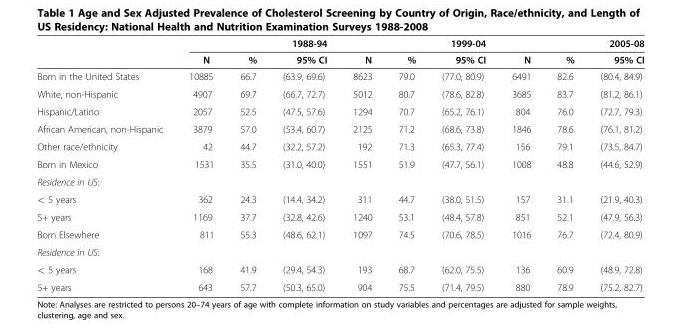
<table><thead><tr><td rowspan="2"></td><td rowspan="2">N</td><td colspan="2">1988-94</td><td rowspan="2">N</td><td colspan="2">1999-04</td><td rowspan="2">N</td><td colspan="2">2005-08</td></tr><tr><td>%</td><td>95% CI</td><td>%</td><td>95% CI</td><td>%</td><td>95% CI</td></tr></thead><tbody><tr><td>Born in the United States</td><td>10885</td><td>66.7</td><td>(63.9, 69.6)</td><td>8623</td><td>79.0</td><td>(77.0, 80.9)</td><td>6491</td><td>82.6</td><td>(80.4, 84.9)</td></tr><tr><td>White, non-Hispanic</td><td>4907</td><td>69.7</td><td>(66.7, 72.7)</td><td>5012</td><td>80.7</td><td>(78.6, 82.8)</td><td>3685</td><td>83.7</td><td>(81.2, 86.1)</td></tr><tr><td>Hispanic/Latino</td><td>2057</td><td>52.5</td><td>(47.5, 57.6)</td><td>1294</td><td>70.7</td><td>(65.2, 76.1)</td><td>804</td><td>76.0</td><td>(72.7, 79.3)</td></tr><tr><td>African American, non-Hispanic</td><td>3879</td><td>57.0</td><td>(53.4, 60.7)</td><td>2125</td><td>71.2</td><td>(68.6, 73.8)</td><td>1846</td><td>78.6</td><td>(76.1, 81.2)</td></tr><tr><td>Other race/ethnicity</td><td>42</td><td>44.7</td><td>(32.2, 57.2)</td><td>192</td><td>71.3</td><td>(65.3, 77.4)</td><td>156</td><td>79.1</td><td>(73.5, 84.7)</td></tr><tr><td>Born in Mexico</td><td>1531</td><td>35.5</td><td>(31.0, 40.0)</td><td>1551</td><td>51.9</td><td>(47.7, 56.1)</td><td>1008</td><td>48.8</td><td>(44.6, 52.9)</td></tr><tr><td colspan="10">Residence in US:</td></tr><tr><td>&lt; 5 years</td><td>362</td><td>24.3</td><td>(14.4, 34.2)</td><td>311</td><td>44.7</td><td>(38.0, 51.5)</td><td>157</td><td>31.1</td><td>(21.9, 40.3)</td></tr><tr><td>5+ years</td><td>1169</td><td>37.7</td><td>(32.8, 42.6)</td><td>1240</td><td>53.1</td><td>(48.4, 57.8)</td><td>851</td><td>52.1</td><td>(47.9, 56.3)</td></tr><tr><td>Born Elsewhere</td><td>811</td><td>55.3</td><td>(48.6, 62.1)</td><td>1097</td><td>74.5</td><td>(70.6, 78.5)</td><td>1016</td><td>76.7</td><td>(72.4, 80.9)</td></tr><tr><td colspan="10">Residence in US:</td></tr><tr><td>&lt; 5 years</td><td>168</td><td>41.9</td><td>(29.4, 54.3)</td><td>193</td><td>68.7</td><td>(62.0, 75.5)</td><td>136</td><td>60.9</td><td>(48.9, 72.8)</td></tr><tr><td>5+ years</td><td>643</td><td>57.7</td><td>(50.3, 65.0)</td><td>904</td><td>75.5</td><td>(71.4, 79.5)</td><td>880</td><td>78.9</td><td>(75.2, 82.7)</td></tr></tbody></table>